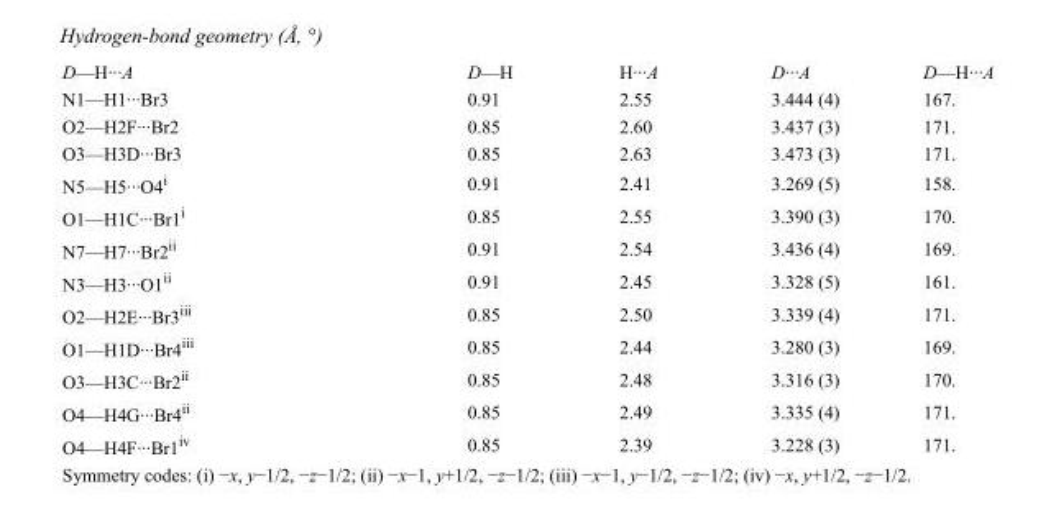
<table><tbody><tr><td>D—H···A</td><td>D—H</td><td>H···A</td><td>D···A</td><td>D—H···A</td></tr><tr><td>N1—H1···Br3</td><td>0.91</td><td>2.55</td><td>3.444 (4)</td><td>167.</td></tr><tr><td>O2—H2F···Br2</td><td>0.85</td><td>2.60</td><td>3.437 (3)</td><td>171.</td></tr><tr><td>O3—H3D···Br3</td><td>0.85</td><td>2.63</td><td>3.473 (3)</td><td>171.</td></tr><tr><td>N5—H5···O4<sup>i</sup></td><td>0.91</td><td>2.41</td><td>3.269 (5)</td><td>158.</td></tr><tr><td>O1—H1C···Br1<sup>i</sup></td><td>0.85</td><td>2.55</td><td>3.390 (3)</td><td>170.</td></tr><tr><td>N7—H7···Br2<sup>ii</sup></td><td>0.91</td><td>2.54</td><td>3.436 (4)</td><td>169.</td></tr><tr><td>N3—H3···O1<sup>ii</sup></td><td>0.91</td><td>2.45</td><td>3.328 (5)</td><td>161.</td></tr><tr><td>O2—H2E···Br3<sup>iii</sup></td><td>0.85</td><td>2.50</td><td>3.339 (4)</td><td>171.</td></tr><tr><td>O1—H1D···Br4<sup>iii</sup></td><td>0.85</td><td>2.44</td><td>3.280 (3)</td><td>169.</td></tr><tr><td>O3—H3C···Br2<sup>ii</sup></td><td>0.85</td><td>2.48</td><td>3.316 (3)</td><td>170.</td></tr><tr><td>O4—H4G···Br4<sup>ii</sup></td><td>0.85</td><td>2.49</td><td>3.335 (4)</td><td>171.</td></tr><tr><td>O4—H4F···Br1<sup>iv</sup></td><td>0.85</td><td>2.39</td><td>3.228 (3)</td><td>171.</td></tr></tbody></table>